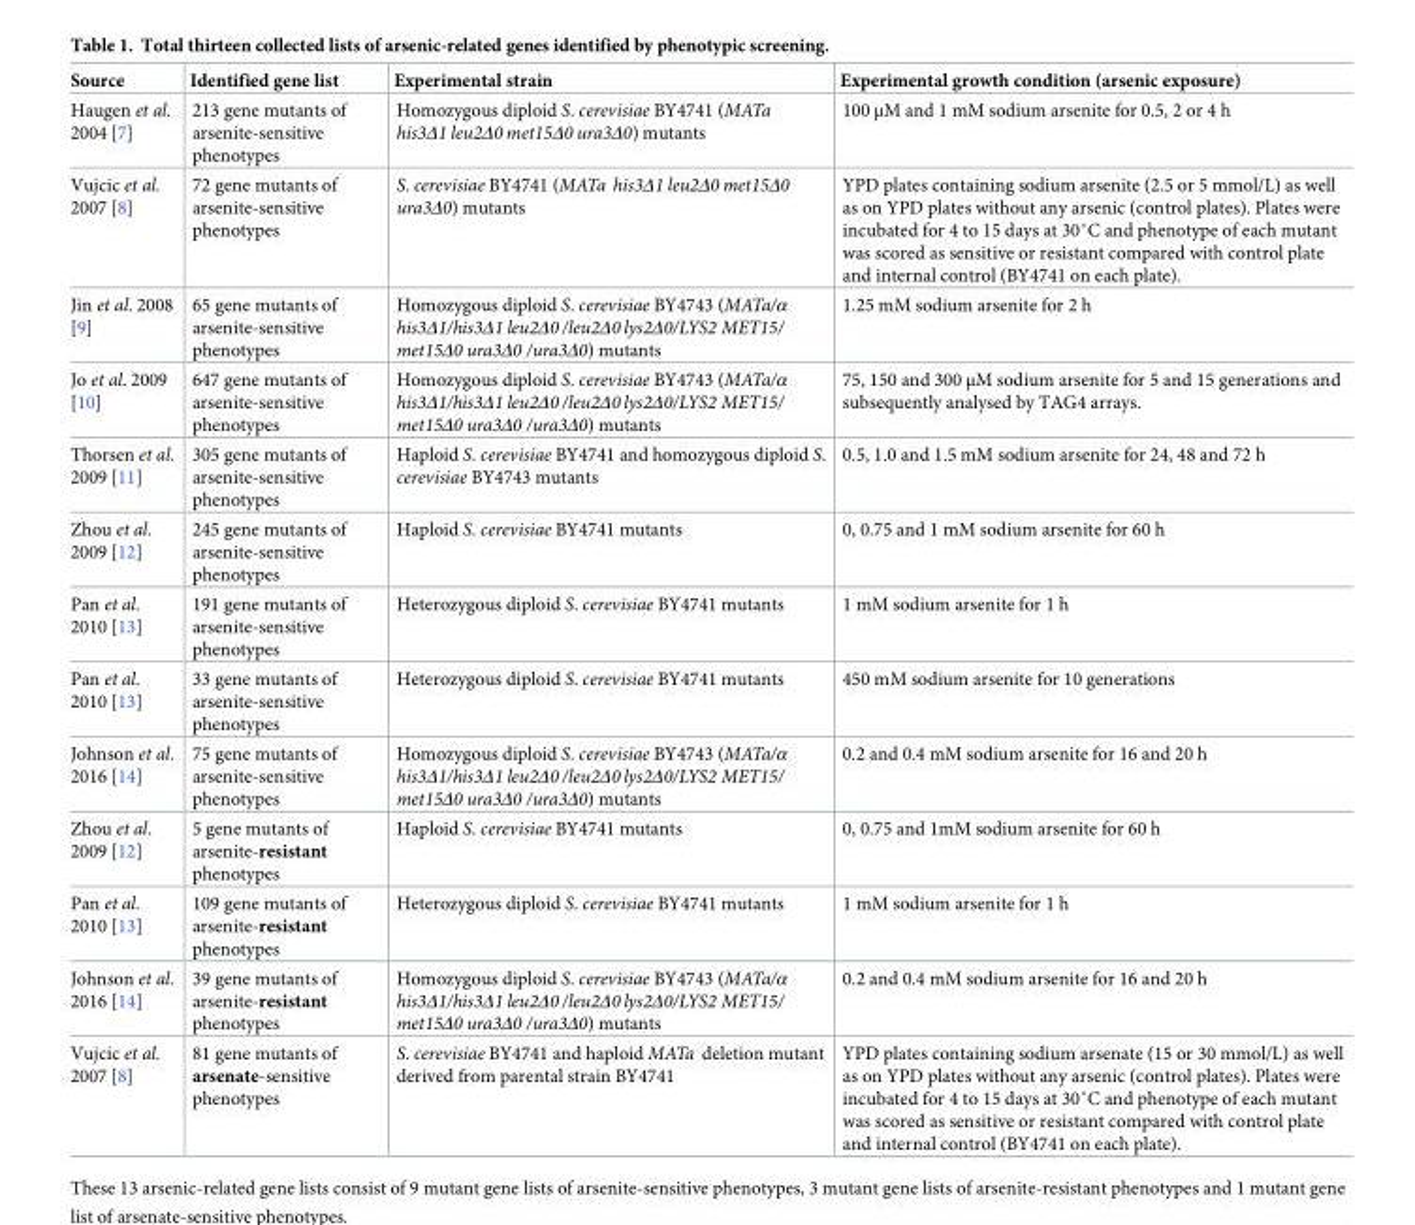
<table><thead><tr><td>Source</td><td>Identified gene list</td><td>Experimental strain</td><td>Experimental growth condition (arsenic exposure)</td></tr></thead><tbody><tr><td>Haugen et al. 2004 [7]</td><td>213 gene mutants of arsenite-sensitive phenotypes</td><td>Homozygous diploid S. cerevisiae BY4741 (MATa his3Δ1 leu2Δ0 met15Δ0 ura3Δ0) mutants</td><td>100 μM and 1 mM sodium arsenite for 0.5, 2 or 4 h</td></tr><tr><td>Vujcic et al. 2007 [8]</td><td>72 gene mutants of arsenite-sensitive phenotypes</td><td>S. cerevisiae BY4741 (MATa his3Δ1 leu2Δ0 met15Δ0 ura3Δ0) mutants</td><td>YPD plates containing sodium arsenite (2.5 or 5 mmol/L) as well as on YPD plates without any arsenic (control plates). Plates were incubated for 4 to 15 days at 30˚C and phenotype of each mutant was scored as sensitive or resistant compared with control plate and internal control (BY4741 on each plate).</td></tr><tr><td>Jin et al. 2008 [9]</td><td>65 gene mutants of arsenite-sensitive phenotypes</td><td>Homozygous diploid S. cerevisiae BY4743 (MATa/α his3Δ1/his3Δ1 leu2Δ0 /leu2Δ0 lys2Δ0/LYS2 MET15/ met15Δ0 ura3Δ0 /ura3Δ0) mutants</td><td>1.25 mM sodium arsenite for 2 h</td></tr><tr><td>Jo et al. 2009 [10]</td><td>647 gene mutants of arsenite-sensitive phenotypes</td><td>Homozygous diploid S. cerevisiae BY4743 (MATa/α his3Δ1/his3Δ1 leu2Δ0 /leu2Δ0 lys2Δ0/LYS2 MET15/ met15Δ0 ura3Δ0 /ura3Δ0) mutants</td><td>75, 150 and 300 μM sodium arsenite for 5 and 15 generations and subsequently analysed by TAG4 arrays.</td></tr><tr><td>Thorsen et al. 2009 [11]</td><td>305 gene mutants of arsenite-sensitive phenotypes</td><td>Haploid S. cerevisiae BY4741 and homozygous diploid S. cerevisiae BY4743 mutants</td><td>0.5, 1.0 and 1.5 mM sodium arsenite for 24, 48 and 72 h</td></tr><tr><td>Zhou et al. 2009 [12]</td><td>245 gene mutants of arsenite-sensitive phenotypes</td><td>Haploid S. cerevisiae BY4741 mutants</td><td>0, 0.75 and 1 mM sodium arsenite for 60 h</td></tr><tr><td>Pan et al. 2010 [13]</td><td>191 gene mutants of arsenite-sensitive phenotypes</td><td>Heterozygous diploid S. cerevisiae BY4741 mutants</td><td>1 mM sodium arsenite for 1 h</td></tr><tr><td>Pan et al. 2010 [13]</td><td>33 gene mutants of arsenite-sensitive phenotypes</td><td>Heterozygous diploid S. cerevisiae BY4741 mutants</td><td>450 mM sodium arsenite for 10 generations</td></tr><tr><td>Johnson et al. 2016 [14]</td><td>75 gene mutants of arsenite-sensitive phenotypes</td><td>Homozygous diploid S. cerevisiae BY4743 (MATa/α his3Δ1/his3Δ1 leu2Δ0 /leu2Δ0 lys2Δ0/LYS2 MET15/ met15Δ0 ura3Δ0 /ura3Δ0) mutants</td><td>0.2 and 0.4 mM sodium arsenite for 16 and 20 h</td></tr><tr><td>Zhou et al. 2009 [12]</td><td>5 gene mutants of arsenite-resistant phenotypes</td><td>Haploid S. cerevisiae BY4741 mutants</td><td>0, 0.75 and 1mM sodium arsenite for 60 h</td></tr><tr><td>Pan et al. 2010 [13]</td><td>109 gene mutants of arsenite-resistant phenotypes</td><td>Heterozygous diploid S. cerevisiae BY4741 mutants</td><td>1 mM sodium arsenite for 1 h</td></tr><tr><td>Johnson et al. 2016 [14]</td><td>39 gene mutants of arsenite-resistant phenotypes</td><td>Homozygous diploid S. cerevisiae BY4743 (MATa/α his3Δ1/his3Δ1 leu2Δ0 /leu2Δ0 lys2Δ0/LYS2 MET15/ met15Δ0 ura3Δ0 /ura3Δ0) mutants</td><td>0.2 and 0.4 mM sodium arsenite for 16 and 20 h</td></tr><tr><td>Vujcic et al. 2007 [8]</td><td>81 gene mutants of arsenate-sensitive phenotypes</td><td>S. cerevisiae BY4741 and haploid MATa deletion mutant derived from parental strain BY4741</td><td>YPD plates containing sodium arsenate (15 or 30 mmol/L) as well as on YPD plates without any arsenic (control plates). Plates were incubated for 4 to 15 days at 30˚C and phenotype of each mutant was scored as sensitive or resistant compared with control plate and internal control (BY4741 on each plate).</td></tr></tbody></table>